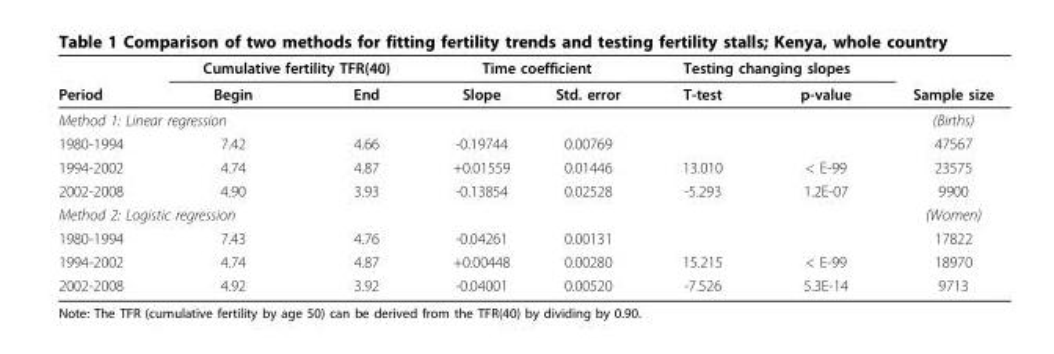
<table><thead><tr><td rowspan="2">Period</td><td colspan="2">Cumulative fertility TFR(40)</td><td colspan="2">Time coefficient</td><td colspan="2">Testing changing slopes</td><td rowspan="2">Sample size</td></tr><tr><td>Begin</td><td>End</td><td>Slope</td><td>Std. error</td><td>T-test</td><td>p-value</td></tr></thead><tbody><tr><td colspan="3">Method 1: Linear regression</td><td></td><td></td><td></td><td></td><td>(Births)</td></tr><tr><td>1980-1994</td><td>7.42</td><td>4.66</td><td>-0.19744</td><td>0.00769</td><td></td><td></td><td>47567</td></tr><tr><td>1994-2002</td><td>4.74</td><td>4.87</td><td>+0.01559</td><td>0.01446</td><td>13.010</td><td>&lt; E-99</td><td>23575</td></tr><tr><td>2002-2008</td><td>4.90</td><td>3.93</td><td>-0.13854</td><td>0.02528</td><td>-5.293</td><td>1.2E-07</td><td>9900</td></tr><tr><td colspan="3">Method 2: Logistic regression</td><td></td><td></td><td></td><td></td><td>(Women)</td></tr><tr><td>1980-1994</td><td>7.43</td><td>4.76</td><td>-0.04261</td><td>0.00131</td><td></td><td></td><td>17822</td></tr><tr><td>1994-2002</td><td>4.74</td><td>4.87</td><td>+0.00448</td><td>0.00280</td><td>15.215</td><td>&lt; E-99</td><td>18970</td></tr><tr><td>2002-2008</td><td>4.92</td><td>3.92</td><td>-0.04001</td><td>0.00520</td><td>-7.526</td><td>5.3E-14</td><td>9713</td></tr></tbody></table>